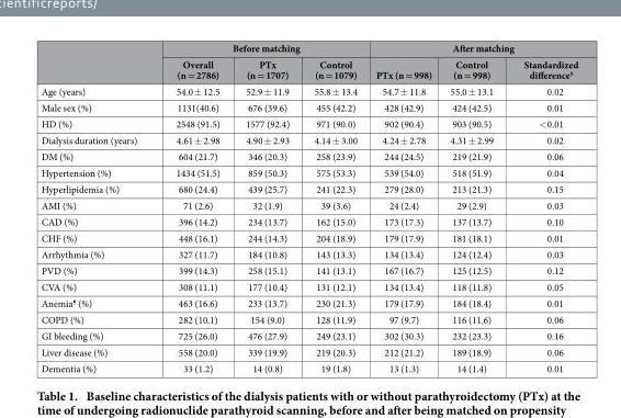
<table><thead><tr><td rowspan="2"></td><td colspan="3">Before matching</td><td colspan="3">After matching</td></tr><tr><td>Overall (n = 2786)</td><td>PTx (n = 1707)</td><td>Control (n = 1079)</td><td>PTx (n = 998)</td><td>Control (n = 998)</td><td>Standardized difference§</td></tr></thead><tbody><tr><td>Age (years)</td><td>54.0 ± 12.5</td><td>52.9 ± 11.9</td><td>55.8 ± 13.4</td><td>54.7 ± 11.8</td><td>55.0 ± 13.1</td><td>0.02</td></tr><tr><td>Male sex (%)</td><td>1131(40.6)</td><td>676 (39.6)</td><td>455 (42.2)</td><td>428 (42.9)</td><td>424 (42.5)</td><td>0.01</td></tr><tr><td>HD (%)</td><td>2548 (91.5)</td><td>1577 (92.4)</td><td>971 (90.0)</td><td>902 (90.4)</td><td>903 (90.5)</td><td>&lt; 0.01</td></tr><tr><td>Dialysis duration (years)</td><td>4.61 ± 2.98</td><td>4.90 ± 2.93</td><td>4.14 ± 3.00</td><td>4.24 ± 2.78</td><td>4.31 ± 2.99</td><td>0.02</td></tr><tr><td>DM (%)</td><td>604 (21.7)</td><td>346 (20.3)</td><td>258 (23.9)</td><td>244 (24.5)</td><td>219 (21.9)</td><td>0.06</td></tr><tr><td>Hypertension (%)</td><td>1434 (51.5)</td><td>859 (50.3)</td><td>575 (53.3)</td><td>539 (54.0)</td><td>518 (51.9)</td><td>0.04</td></tr><tr><td>Hyperlipidemia (%)</td><td>680 (24.4)</td><td>439 (25.7)</td><td>241 (22.3)</td><td>279 (28.0)</td><td>213 (21.3)</td><td>0.15</td></tr><tr><td>AMI (%)</td><td>71 (2.6)</td><td>32 (1.9)</td><td>39 (3.6)</td><td>24 (2.4)</td><td>29 (2.9)</td><td>0.03</td></tr><tr><td>CAD (%)</td><td>396 (14.2)</td><td>234 (13.7)</td><td>162 (15.0)</td><td>173 (17.3)</td><td>137 (13.7)</td><td>0.10</td></tr><tr><td>CHF (%)</td><td>448 (16.1)</td><td>244 (14.3)</td><td>204 (18.9)</td><td>179 (17.9)</td><td>181 (18.1)</td><td>0.01</td></tr><tr><td>Arrhythmia (%)</td><td>327 (11.7)</td><td>184 (10.8)</td><td>143 (13.3)</td><td>134 (13.4)</td><td>124 (12.4)</td><td>0.03</td></tr><tr><td>PVD (%)</td><td>399 (14.3)</td><td>258 (15.1)</td><td>141 (13.1)</td><td>167 (16.7)</td><td>125 (12.5)</td><td>0.12</td></tr><tr><td>CVA (%)</td><td>308 (11.1)</td><td>177 (10.4)</td><td>131 (12.1)</td><td>134 (13.4)</td><td>118 (11.8)</td><td>0.05</td></tr><tr><td>Anemia¶ (%)</td><td>463 (16.6)</td><td>233 (13.7)</td><td>230 (21.3)</td><td>179 (17.9)</td><td>184 (18.4)</td><td>0.01</td></tr><tr><td>COPD (%)</td><td>282 (10.1)</td><td>154 (9.0)</td><td>128 (11.9)</td><td>97 (9.7)</td><td>116 (11.6)</td><td>0.06</td></tr><tr><td>GI bleeding (%)</td><td>725 (26.0)</td><td>476 (27.9)</td><td>249 (23.1)</td><td>302 (30.3)</td><td>232 (23.3)</td><td>0.16</td></tr><tr><td>Liver disease (%)</td><td>558 (20.0)</td><td>339 (19.9)</td><td>219 (20.3)</td><td>212 (21.2)</td><td>189 (18.9)</td><td>0.06</td></tr><tr><td>Dementia (%)</td><td>33 (1.2)</td><td>14 (0.8)</td><td>19 (1.8)</td><td>13 (1.3)</td><td>14 (1.4)</td><td>0.01</td></tr></tbody></table>